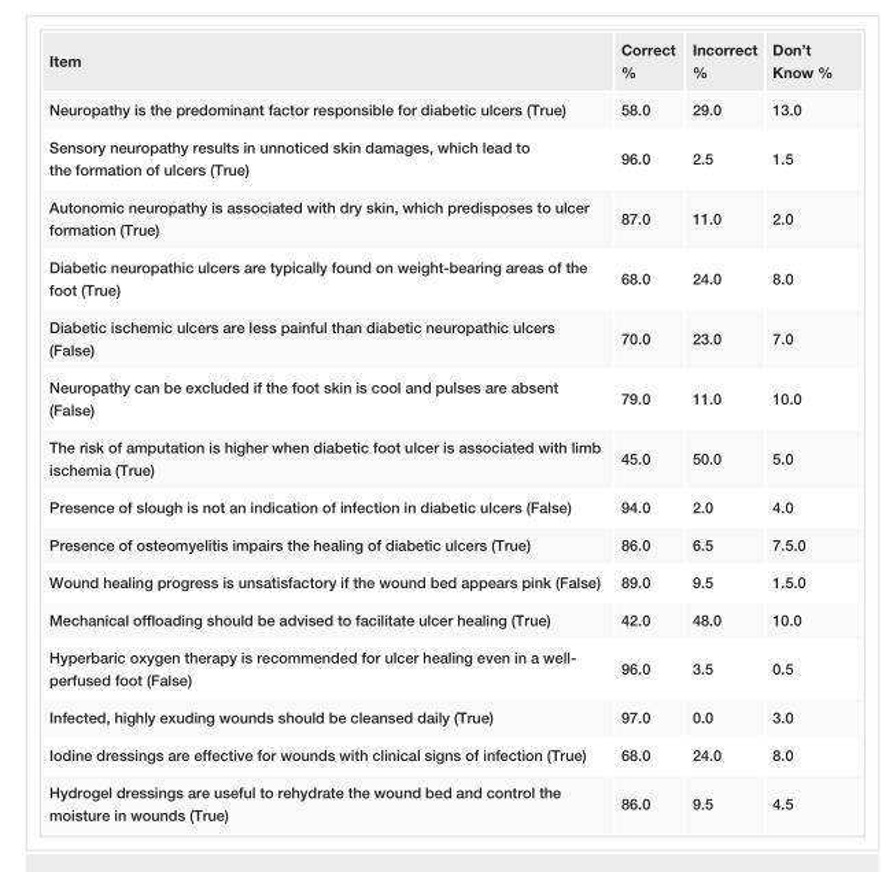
<table><tbody><tr><td>Item</td><td>Correct %</td><td>Incorrect %</td><td>Don’t Know %</td></tr><tr><td>Neuropathy is the predominant factor responsible for diabetic ulcers (True)</td><td>58.0</td><td>29.0</td><td>13.0</td></tr><tr><td>Sensory neuropathy results in unnoticed skin damages, which lead to the formation of ulcers (True)</td><td>96.0</td><td>2.5</td><td>1.5</td></tr><tr><td>Autonomic neuropathy is associated with dry skin, which predisposes to ulcer formation (True)</td><td>87.0</td><td>11.0</td><td>2.0</td></tr><tr><td>Diabetic neuropathic ulcers are typically found on weight-bearing areas of the foot (True)</td><td>68.0</td><td>24.0</td><td>8.0</td></tr><tr><td>Diabetic ischemic ulcers are less painful than diabetic neuropathic ulcers (False)</td><td>70.0</td><td>23.0</td><td>7.0</td></tr><tr><td>Neuropathy can be excluded if the foot skin is cool and pulses are absent (False)</td><td>79.0</td><td>11.0</td><td>10.0</td></tr><tr><td>The risk of amputation is higher when diabetic foot ulcer is associated with limb ischemia (True)</td><td>45.0</td><td>50.0</td><td>5.0</td></tr><tr><td>Presence of slough is not an indication of infection in diabetic ulcers (False)</td><td>94.0</td><td>2.0</td><td>4.0</td></tr><tr><td>Presence of osteomyelitis impairs the healing of diabetic ulcers (True)</td><td>86.0</td><td>6.5</td><td>7.5.0</td></tr><tr><td>Wound healing progress is unsatisfactory if the wound bed appears pink (False)</td><td>89.0</td><td>9.5</td><td>1.5.0</td></tr><tr><td>Mechanical offloading should be advised to facilitate ulcer healing (True)</td><td>42.0</td><td>48.0</td><td>10.0</td></tr><tr><td>Hyperbaric oxygen therapy is recommended for ulcer healing even in a well- perfused foot (False)</td><td>96.0</td><td>3.5</td><td>0.5</td></tr><tr><td>Infected, highly exuding wounds should be cleansed daily (True)</td><td>97.0</td><td>0.0</td><td>3.0</td></tr><tr><td>Iodine dressings are effective for wounds with clinical signs of infection (True)</td><td>68.0</td><td>24.0</td><td>8.0</td></tr><tr><td>Hydrogel dressings are useful to rehydrate the wound bed and control the moisture in wounds (True)</td><td>86.0</td><td>9.5</td><td>4.5</td></tr></tbody></table>